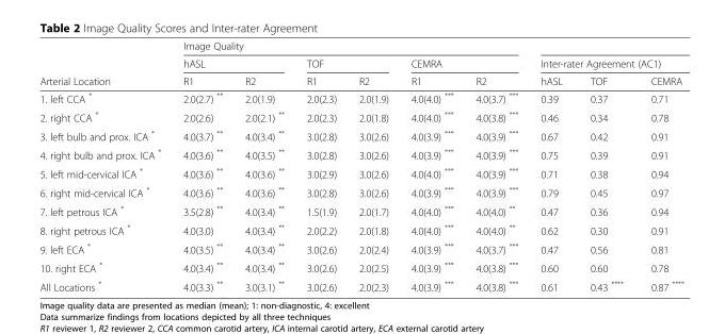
<table><thead><tr><td rowspan="3">Arterial Location</td><td colspan="6">Image Quality</td><td></td><td></td><td></td></tr><tr><td colspan="2">hASL</td><td colspan="2">TOF</td><td colspan="2">CEMRA</td><td colspan="3">Inter-rater Agreement (AC1)</td></tr><tr><td>R1</td><td>R2</td><td>R1</td><td>R2</td><td>R1</td><td>R2</td><td>hASL</td><td>TOF</td><td>CEMRA</td></tr></thead><tbody><tr><td>1. left CCA *</td><td>2.0(2.7) **</td><td>2.0(1.9)</td><td>2.0(2.3)</td><td>2.0(1.9)</td><td>4.0(4.0) ***</td><td>4.0(3.7) ***</td><td>0.39</td><td>0.37</td><td>0.71</td></tr><tr><td>2. right CCA *</td><td>2.0(2.6)</td><td>2.0(2.1) **</td><td>2.0(2.3)</td><td>2.0(1.8)</td><td>4.0(4.0) ***</td><td>4.0(3.8) ***</td><td>0.46</td><td>0.34</td><td>0.78</td></tr><tr><td>3. left bulb and prox. ICA *</td><td>4.0(3.7) **</td><td>4.0(3.4) **</td><td>3.0(2.8)</td><td>3.0(2.6)</td><td>4.0(3.9) ***</td><td>4.0(3.9) ***</td><td>0.67</td><td>0.42</td><td>0.91</td></tr><tr><td>4. right bulb and prox. ICA *</td><td>4.0(3.6) **</td><td>4.0(3.5) **</td><td>3.0(2.8)</td><td>3.0(2.6)</td><td>4.0(3.9) ***</td><td>4.0(3.9) ***</td><td>0.75</td><td>0.39</td><td>0.91</td></tr><tr><td>5. left mid-cervical ICA *</td><td>4.0(3.6) **</td><td>4.0(3.6) **</td><td>3.0(2.9)</td><td>3.0(2.6)</td><td>4.0(4.0) ***</td><td>4.0(3.9) ***</td><td>0.71</td><td>0.38</td><td>0.94</td></tr><tr><td>6. right mid-cervical ICA *</td><td>4.0(3.6) **</td><td>4.0(3.6) **</td><td>3.0(2.8)</td><td>3.0(2.6)</td><td>4.0(3.9) ***</td><td>4.0(3.9) ***</td><td>0.79</td><td>0.45</td><td>0.97</td></tr><tr><td>7. left petrous ICA *</td><td>3.5(2.8) **</td><td>4.0(3.4) **</td><td>1.5(1.9)</td><td>2.0(1.7)</td><td>4.0(4.0) ***</td><td>4.0(4.0) **</td><td>0.47</td><td>0.36</td><td>0.94</td></tr><tr><td>8. right petrous ICA *</td><td>4.0(3.0)</td><td>4.0(3.4) **</td><td>2.0(2.2)</td><td>2.0(1.8)</td><td>4.0(4.0) ***</td><td>4.0(4.0) **</td><td>0.62</td><td>0.30</td><td>0.91</td></tr><tr><td>9. left ECA *</td><td>4.0(3.5) **</td><td>4.0(3.4) **</td><td>3.0(2.6)</td><td>2.0(2.4)</td><td>4.0(3.9) ***</td><td>4.0(3.7) ***</td><td>0.47</td><td>0.56</td><td>0.81</td></tr><tr><td>10. right ECA *</td><td>4.0(3.4) **</td><td>4.0(3.4) **</td><td>3.0(2.6)</td><td>2.0(2.5)</td><td>4.0(3.9) ***</td><td>4.0(3.8) ***</td><td>0.60</td><td>0.60</td><td>0.78</td></tr><tr><td>All Locations *</td><td>4.0(3.3) **</td><td>3.0(3.1) **</td><td>3.0(2.6)</td><td>2.0(2.3)</td><td>4.0(3.9) ***</td><td>4.0(3.8) ***</td><td>0.61</td><td>0.43 ****</td><td>0.87 ****</td></tr></tbody></table>